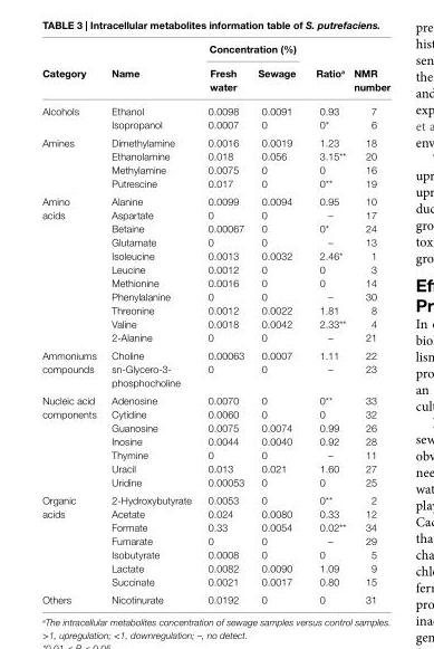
<table><thead><tr><td rowspan="2">category</td><td rowspan="2">name</td><td colspan="2">concentration (%)</td><td rowspan="2">ratio<sup>a</sup></td><td rowspan="2">nMr number</td></tr><tr><td>Fresh water</td><td>sewage</td></tr></thead><tbody><tr><td rowspan="2">Alcohols</td><td>Ethanol</td><td>0.0098</td><td>0.0091</td><td>0.93</td><td>7</td></tr><tr><td>Isopropanol</td><td>0.0007</td><td>0</td><td>0*</td><td>6</td></tr><tr><td rowspan="4">Amines</td><td>Dimethylamine</td><td>0.0016</td><td>0.0019</td><td>1.23</td><td>18</td></tr><tr><td>Ethanolamine</td><td>0.018</td><td>0.056</td><td>3.15**</td><td>20</td></tr><tr><td>Methylamine</td><td>0.0075</td><td>0</td><td>0</td><td>16</td></tr><tr><td>Putrescine</td><td>0.017</td><td>0</td><td>0**</td><td>19</td></tr><tr><td rowspan="11">Amino acids</td><td>Alanine</td><td>0.0099</td><td>0.0094</td><td>0.95</td><td>10</td></tr><tr><td>Aspartate</td><td>0</td><td>0</td><td>–</td><td>17</td></tr><tr><td>Betaine</td><td>0.00067</td><td>0</td><td>0*</td><td>24</td></tr><tr><td>Glutamate</td><td>0</td><td>0</td><td>–</td><td>13</td></tr><tr><td>Isoleucine</td><td>0.0013</td><td>0.0032</td><td>2.46*</td><td>1</td></tr><tr><td>Leucine</td><td>0.0012</td><td>0</td><td>0</td><td>3</td></tr><tr><td>Methionine</td><td>0.0016</td><td>0</td><td>0</td><td>14</td></tr><tr><td>Phenylalanine</td><td>0</td><td>0</td><td>–</td><td>30</td></tr><tr><td>Threonine</td><td>0.0012</td><td>0.0022</td><td>1.81</td><td>8</td></tr><tr><td>Valine</td><td>0.0018</td><td>0.0042</td><td>2.33**</td><td>4</td></tr><tr><td>2-Alanine</td><td>0</td><td>0</td><td>–</td><td>21</td></tr><tr><td rowspan="2">Ammoniums compounds</td><td>Choline</td><td>0.00063</td><td>0.0007</td><td>1.11</td><td>22</td></tr><tr><td>sn-Glycero-3- phosphocholine</td><td>0</td><td>0</td><td>–</td><td>23</td></tr><tr><td rowspan="7">Nucleic acid components</td><td>Adenosine</td><td>0.0070</td><td>0</td><td>0**</td><td>33</td></tr><tr><td>Cytidine</td><td>0.0060</td><td>0</td><td>0</td><td>32</td></tr><tr><td>Guanosine</td><td>0.0075</td><td>0.0074</td><td>0.99</td><td>26</td></tr><tr><td>Inosine</td><td>0.0044</td><td>0.0040</td><td>0.92</td><td>28</td></tr><tr><td>Thymine</td><td>0</td><td>0</td><td>–</td><td>11</td></tr><tr><td>Uracil</td><td>0.013</td><td>0.021</td><td>1.60</td><td>27</td></tr><tr><td>Uridine</td><td>0.00053</td><td>0</td><td>0</td><td>25</td></tr><tr><td rowspan="7">Organic acids</td><td>2-Hydroxybutyrate</td><td>0.0053</td><td>0</td><td>0**</td><td>2</td></tr><tr><td>Acetate</td><td>0.024</td><td>0.0080</td><td>0.33</td><td>12</td></tr><tr><td>Formate</td><td>0.33</td><td>0.0054</td><td>0.02**</td><td>34</td></tr><tr><td>Fumarate</td><td>0</td><td>0</td><td>–</td><td>29</td></tr><tr><td>Isobutyrate</td><td>0.0008</td><td>0</td><td>0</td><td>5</td></tr><tr><td>Lactate</td><td>0.0082</td><td>0.0090</td><td>1.09</td><td>9</td></tr><tr><td>Succinate</td><td>0.0021</td><td>0.0017</td><td>0.80</td><td>15</td></tr><tr><td>Others</td><td>Nicotinurate</td><td>0.0192</td><td>0</td><td>0</td><td>31</td></tr></tbody></table>